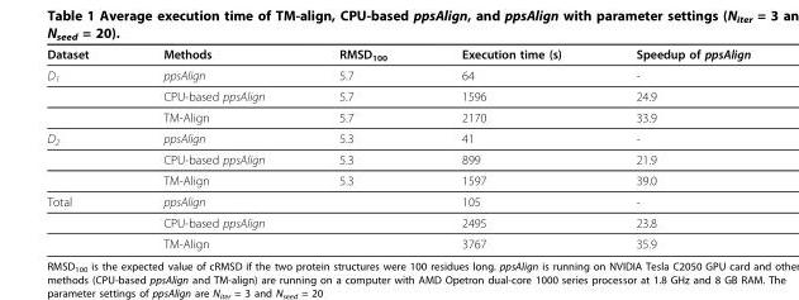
<table><thead><tr><td>Dataset</td><td>Methods</td><td>RMSD<sub>100</sub></td><td>Execution time (s)</td><td>Speedup of ppsAlign</td></tr></thead><tbody><tr><td rowspan="3">D<sub>1</sub></td><td>ppsAlign</td><td>5.7</td><td>64</td><td>-</td></tr><tr><td>CPU-based ppsAlign</td><td>5.7</td><td>1596</td><td>24.9</td></tr><tr><td>TM-Align</td><td>5.7</td><td>2170</td><td>33.9</td></tr><tr><td rowspan="3">D<sub>2</sub></td><td>ppsAlign</td><td>5.3</td><td>41</td><td>-</td></tr><tr><td>CPU-based ppsAlign</td><td>5.3</td><td>899</td><td>21.9</td></tr><tr><td>TM-Align</td><td>5.3</td><td>1597</td><td>39.0</td></tr><tr><td rowspan="3">Total</td><td>ppsAlign</td><td></td><td>105</td><td>-</td></tr><tr><td>CPU-based ppsAlign</td><td></td><td>2495</td><td>23.8</td></tr><tr><td>TM-Align</td><td></td><td>3767</td><td>35.9</td></tr></tbody></table>